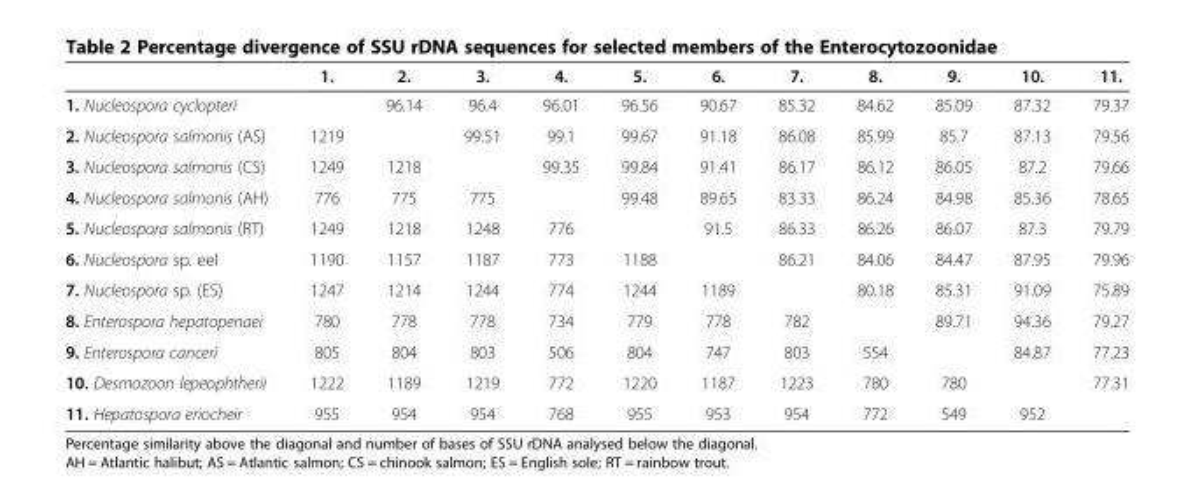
<table><thead><tr><td></td><td>1.</td><td>2.</td><td>3.</td><td>4.</td><td>5.</td><td>6.</td><td>7.</td><td>8.</td><td>9.</td><td>10.</td><td>11.</td></tr></thead><tbody><tr><td>1. Nucleospora cyclopteri</td><td></td><td>96.14</td><td>96.4</td><td>96.01</td><td>96.56</td><td>90.67</td><td>85.32</td><td>84.62</td><td>85.09</td><td>87.32</td><td>79.37</td></tr><tr><td>2. Nucleospora salmonis (AS)</td><td>1219</td><td></td><td>99.51</td><td>99.1</td><td>99.67</td><td>91.18</td><td>86.08</td><td>85.99</td><td>85.7</td><td>87.13</td><td>79.56</td></tr><tr><td>3. Nucleospora salmonis (CS)</td><td>1249</td><td>1218</td><td></td><td>99.35</td><td>99.84</td><td>91.41</td><td>86.17</td><td>86.12</td><td>86.05</td><td>87.2</td><td>79.66</td></tr><tr><td>4. Nucleospora salmonis (AH)</td><td>776</td><td>775</td><td>775</td><td></td><td>99.48</td><td>89.65</td><td>83.33</td><td>86.24</td><td>84.98</td><td>85.36</td><td>78.65</td></tr><tr><td>5. Nucleospora salmonis (RT)</td><td>1249</td><td>1218</td><td>1248</td><td>776</td><td></td><td>91.5</td><td>86.33</td><td>86.26</td><td>86.07</td><td>87.3</td><td>79.79</td></tr><tr><td>6. Nucleospora sp. eel</td><td>1190</td><td>1157</td><td>1187</td><td>773</td><td>1188</td><td></td><td>86.21</td><td>84.06</td><td>84.47</td><td>87.95</td><td>79.96</td></tr><tr><td>7. Nucleospora sp. (ES)</td><td>1247</td><td>1214</td><td>1244</td><td>774</td><td>1244</td><td>1189</td><td></td><td>80.18</td><td>85.31</td><td>91.09</td><td>75.89</td></tr><tr><td>8. Enterospora hepatopenaei</td><td>780</td><td>778</td><td>778</td><td>734</td><td>779</td><td>778</td><td>782</td><td></td><td>89.71</td><td>94.36</td><td>79.27</td></tr><tr><td>9. Enterospora canceri</td><td>805</td><td>804</td><td>803</td><td>506</td><td>804</td><td>747</td><td>803</td><td>554</td><td></td><td>84.87</td><td>77.23</td></tr><tr><td>10. Desmozoon lepeophtherii</td><td>1222</td><td>1189</td><td>1219</td><td>772</td><td>1220</td><td>1187</td><td>1223</td><td>780</td><td>780</td><td></td><td>77.31</td></tr><tr><td>11. Hepatospora eriocheir</td><td>955</td><td>954</td><td>954</td><td>768</td><td>955</td><td>953</td><td>954</td><td>772</td><td>549</td><td>952</td><td></td></tr></tbody></table>